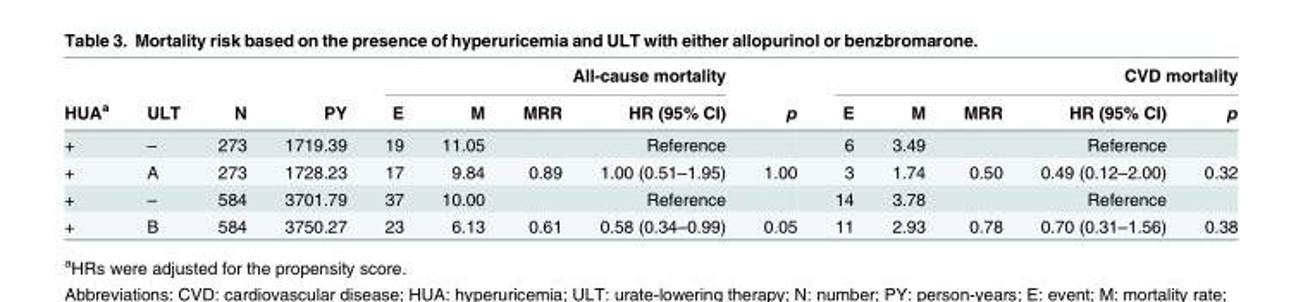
<table><thead><tr><td rowspan="2">HUA<sup>a</sup></td><td rowspan="2">ULT</td><td rowspan="2">N</td><td rowspan="2">PY</td><td colspan="4">All-cause mortality</td><td rowspan="2">p</td><td colspan="5">CVD mortality</td></tr><tr><td>E</td><td>M</td><td>MRR</td><td>HR (95% CI)</td><td>E</td><td>M</td><td>MRR</td><td>HR (95% CI)</td><td>p</td></tr></thead><tbody><tr><td>+</td><td>–</td><td>273</td><td>1719.39</td><td>19</td><td>11.05</td><td></td><td>Reference</td><td></td><td>6</td><td>3.49</td><td></td><td>Reference</td><td></td></tr><tr><td>+</td><td>A</td><td>273</td><td>1728.23</td><td>17</td><td>9.84</td><td>0.89</td><td>1.00 (0.51–1.95)</td><td>1.00</td><td>3</td><td>1.74</td><td>0.50</td><td>0.49 (0.12–2.00)</td><td>0.32</td></tr><tr><td>+</td><td>–</td><td>584</td><td>3701.79</td><td>37</td><td>10.00</td><td></td><td>Reference</td><td></td><td>14</td><td>3.78</td><td></td><td>Reference</td><td></td></tr><tr><td>+</td><td>B</td><td>584</td><td>3750.27</td><td>23</td><td>6.13</td><td>0.61</td><td>0.58 (0.34–0.99)</td><td>0.05</td><td>11</td><td>2.93</td><td>0.78</td><td>0.70 (0.31–1.56)</td><td>0.38</td></tr></tbody></table>